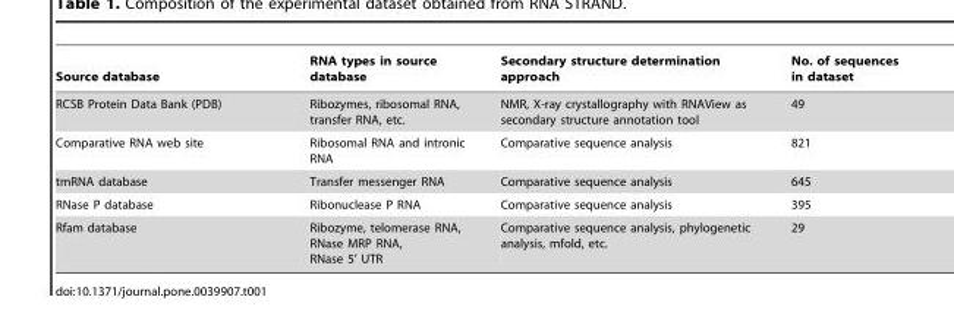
<table><thead><tr><td>Source database</td><td>RNA types in source database</td><td>Secondary structure determination approach</td><td>No. of sequences in dataset</td></tr></thead><tbody><tr><td>RCSB Protein Data Bank (PDB)</td><td>Ribozymes, ribosomal RNA, transfer RNA, etc.</td><td>NMR, X-ray crystallography with RNAView as secondary structure annotation tool</td><td>49</td></tr><tr><td>Comparative RNA web site</td><td>Ribosomal RNA and intronic RNA</td><td>Comparative sequence analysis</td><td>821</td></tr><tr><td>tmRNA database</td><td>Transfer messenger RNA</td><td>Comparative sequence analysis</td><td>645</td></tr><tr><td>RNase P database</td><td>Ribonuclease P RNA</td><td>Comparative sequence analysis</td><td>395</td></tr><tr><td>Rfam database</td><td>Ribozyme, telomerase RNA, RNase MRP RNA, RNase 5’ UTR</td><td>Comparative sequence analysis, phylogenetic analysis, mfold, etc.</td><td>29</td></tr></tbody></table>